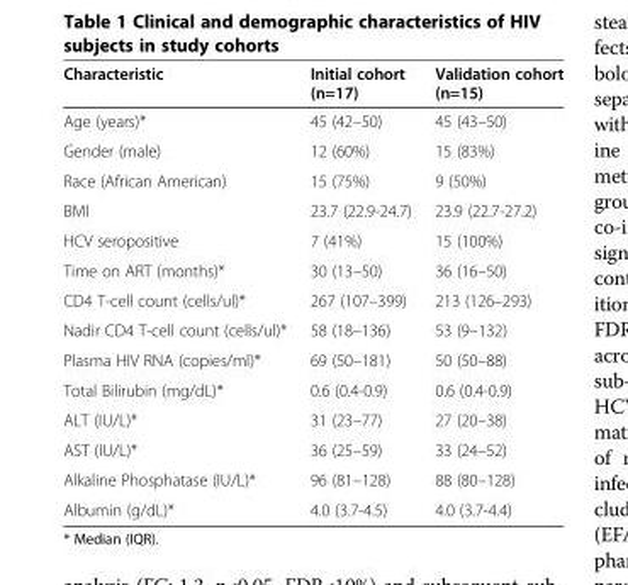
<table><thead><tr><td>Characteristic</td><td>Initial cohort (n=17)</td><td>Validation cohort (n=15)</td></tr></thead><tbody><tr><td>Age (years)*</td><td>45 (42–50)</td><td>45 (43–50)</td></tr><tr><td>Gender (male)</td><td>12 (60%)</td><td>15 (83%)</td></tr><tr><td>Race (African American)</td><td>15 (75%)</td><td>9 (50%)</td></tr><tr><td>BMI</td><td>23.7 (22.9-24.7)</td><td>23.9 (22.7-27.2)</td></tr><tr><td>HCV seropositive</td><td>7 (41%)</td><td>15 (100%)</td></tr><tr><td>Time on ART (months)*</td><td>30 (13–50)</td><td>36 (16–50)</td></tr><tr><td>CD4 T-cell count (cells/ul)*</td><td>267 (107–399)</td><td>213 (126–293)</td></tr><tr><td>Nadir CD4 T-cell count (cells/ul)*</td><td>58 (18–136)</td><td>53 (9–132)</td></tr><tr><td>Plasma HIV RNA (copies/ml)*</td><td>69 (50–181)</td><td>50 (50–88)</td></tr><tr><td>Total Bilirubin (mg/dL)*</td><td>0.6 (0.4-0.9)</td><td>0.6 (0.4-0.9)</td></tr><tr><td>ALT (IU/L)*</td><td>31 (23–77)</td><td>27 (20–38)</td></tr><tr><td>AST (IU/L)*</td><td>36 (25–59)</td><td>33 (24–52)</td></tr><tr><td>Alkaline Phosphatase (IU/L)*</td><td>96 (81–128)</td><td>88 (80–128)</td></tr><tr><td>Albumin (g/dL)*</td><td>4.0 (3.7-4.5)</td><td>4.0 (3.7-4.4)</td></tr></tbody></table>